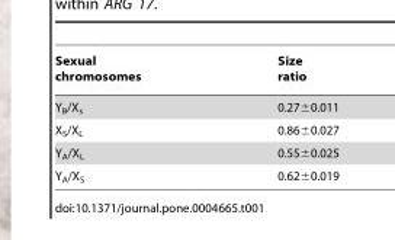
<table><thead><tr><td>Sexual chromosomes</td><td>Size ratio</td></tr></thead><tbody><tr><td>Y<sub>B</sub>/X<sub>s</sub></td><td>0.27±0.011</td></tr><tr><td>X<sub>S</sub>/X<sub>L</sub></td><td>0.86±0.027</td></tr><tr><td>Y<sub>A</sub>/X<sub>L</sub></td><td>0.55±0.025</td></tr><tr><td>Y<sub>A</sub>/X<sub>S</sub></td><td>0.62±0.019</td></tr></tbody></table>